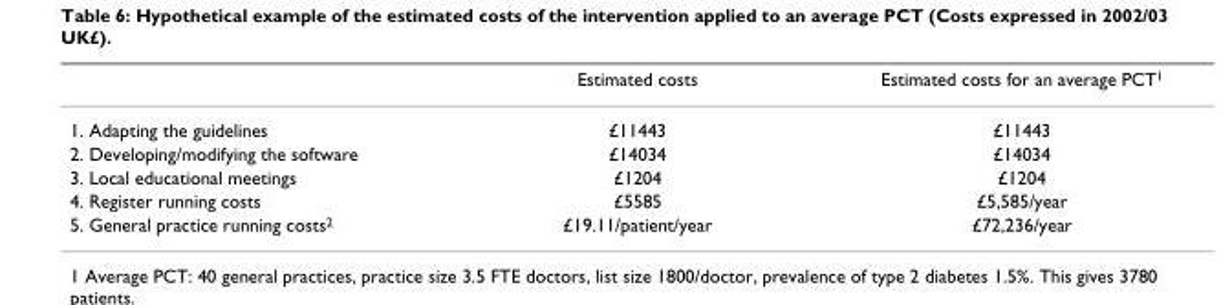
<table><thead><tr><td></td><td>Estimated costs</td><td>Estimated costs for an average PCT<sup>1</sup></td></tr></thead><tbody><tr><td>1. Adapting the guidelines</td><td>£11443</td><td>£11443</td></tr><tr><td>2. Developing/modifying the software</td><td>£14034</td><td>£14034</td></tr><tr><td>3. Local educational meetings</td><td>£1204</td><td>£1204</td></tr><tr><td>4. Register running costs</td><td>£5585</td><td>£5,585/year</td></tr><tr><td>5. General practice running costs<sup>2</sup></td><td>£19.11/patient/year</td><td>£72,236/year</td></tr></tbody></table>